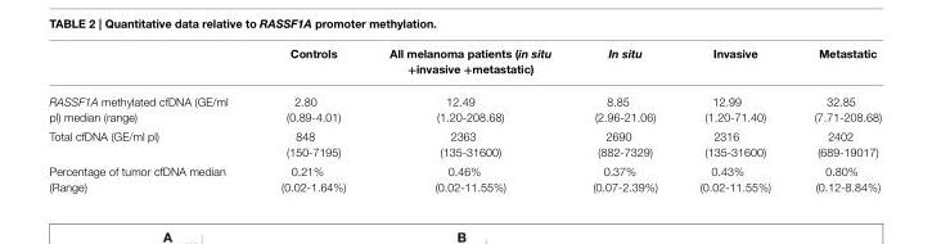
<table><thead><tr><td></td><td>Controls</td><td>All melanoma patients (in situ +invasive +metastatic)</td><td>In situ</td><td>Invasive</td><td>Metastatic</td></tr></thead><tbody><tr><td>RASSF1A methylated cfDNA (GE/ml pl) median (range)</td><td>2.80 (0.89-4.01)</td><td>12.49 (1.20-208.68)</td><td>8.85 (2.96-21.06)</td><td>12.99 (1.20-71.40)</td><td>32.85 (7.71-208.68)</td></tr><tr><td>Total cfDNA (GE/ml pl)</td><td>848 (150-7195)</td><td>2363 (135-31600)</td><td>2690 (882-7329)</td><td>2316 (135-31600)</td><td>2402 (689-19017)</td></tr><tr><td>Percentage of tumor cfDNA median (Range)</td><td>0.21% (0.02-1.64%)</td><td>0.46% (0.02-11.55%)</td><td>0.37% (0.07-2.39%)</td><td>0.43% (0.02-11.55%)</td><td>0.80% (0.12-8.84%)</td></tr></tbody></table>